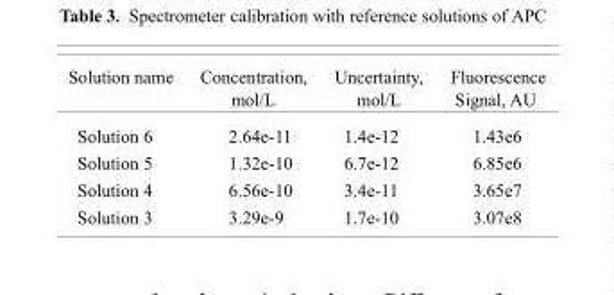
<table><thead><tr><td>Solution name</td><td>Concentration, mol/L</td><td>Uncertainty, mol/L</td><td>Fluorescence Signal, AU</td></tr></thead><tbody><tr><td>Solution 6</td><td>2.64e-11</td><td>1.4e-12</td><td>1.43e6</td></tr><tr><td>Solution 5</td><td>1.32e-10</td><td>6.7e-12</td><td>6.85e6</td></tr><tr><td>Solution 4</td><td>6.56e-10</td><td>3.4e-11</td><td>3.65e7</td></tr><tr><td>Solution 3</td><td>3.29e-9</td><td>1.7e-10</td><td>3.07e8</td></tr></tbody></table>